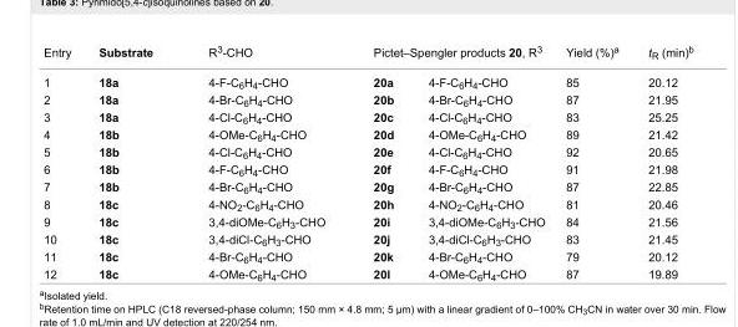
<table><tbody><tr><td>Entry</td><td>Substrate</td><td>R<sup>3</sup>-CHO</td><td colspan="2">Pictet–Spengler products 20, R<sup>3</sup></td><td>Yield (%)<sup>a</sup></td><td>t<sub>R</sub> (min)<sup>b</sup></td></tr><tr><td>1</td><td>18a</td><td>4-F-C<sub>6</sub>H<sub>4</sub>-CHO</td><td>20a</td><td>4-F-C<sub>6</sub>H<sub>4</sub>-CHO</td><td>85</td><td>20.12</td></tr><tr><td>2</td><td>18a</td><td>4-Br-C<sub>6</sub>H<sub>4</sub>-CHO</td><td>20b</td><td>4-Br-C<sub>6</sub>H<sub>4</sub>-CHO</td><td>87</td><td>21.95</td></tr><tr><td>3</td><td>18a</td><td>4-Cl-C<sub>6</sub>H<sub>4</sub>-CHO</td><td>20c</td><td>4-Cl-C<sub>6</sub>H<sub>4</sub>-CHO</td><td>83</td><td>25.25</td></tr><tr><td>4</td><td>18b</td><td>4-OMe-C<sub>6</sub>H<sub>4</sub>-CHO</td><td>20d</td><td>4-OMe-C<sub>6</sub>H<sub>4</sub>-CHO</td><td>89</td><td>21.42</td></tr><tr><td>5</td><td>18b</td><td>4-Cl-C<sub>6</sub>H<sub>4</sub>-CHO</td><td>20e</td><td>4-Cl-C<sub>6</sub>H<sub>4</sub>-CHO</td><td>92</td><td>20.65</td></tr><tr><td>6</td><td>18b</td><td>4-F-C<sub>6</sub>H<sub>4</sub>-CHO</td><td>20f</td><td>4-F-C<sub>6</sub>H<sub>4</sub>-CHO</td><td>91</td><td>21.98</td></tr><tr><td>7</td><td>18b</td><td>4-Br-C<sub>6</sub>H<sub>4</sub>-CHO</td><td>20g</td><td>4-Br-C<sub>6</sub>H<sub>4</sub>-CHO</td><td>87</td><td>22.85</td></tr><tr><td>8</td><td>18c</td><td>4-NO<sub>2</sub>-C<sub>6</sub>H<sub>4</sub>-CHO</td><td>20h</td><td>4-NO<sub>2</sub>-C<sub>6</sub>H<sub>4</sub>-CHO</td><td>81</td><td>20.46</td></tr><tr><td>9</td><td>18c</td><td>3,4-diOMe-C<sub>6</sub>H<sub>3</sub>-CHO</td><td>20i</td><td>3,4-diOMe-C<sub>6</sub>H<sub>3</sub>-CHO</td><td>84</td><td>21.56</td></tr><tr><td>10</td><td>18c</td><td>3,4-diCl-C<sub>6</sub>H<sub>3</sub>-CHO</td><td>20j</td><td>3,4-diCl-C<sub>6</sub>H<sub>3</sub>-CHO</td><td>83</td><td>21.45</td></tr><tr><td>11</td><td>18c</td><td>4-Br-C<sub>6</sub>H<sub>4</sub>-CHO</td><td>20k</td><td>4-Br-C<sub>6</sub>H<sub>4</sub>-CHO</td><td>79</td><td>20.12</td></tr><tr><td>12</td><td>18c</td><td>4-OMe-C<sub>6</sub>H<sub>4</sub>-CHO</td><td>20l</td><td>4-OMe-C<sub>6</sub>H<sub>4</sub>-CHO</td><td>87</td><td>19.89</td></tr></tbody></table>